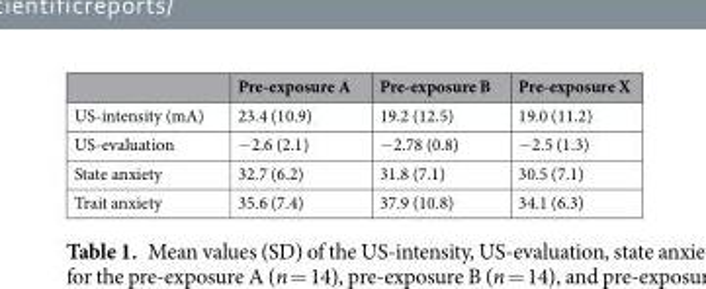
<table><thead><tr><td></td><td>Pre-exposure A</td><td>Pre-exposure B</td><td>Pre-exposure X</td></tr></thead><tbody><tr><td>US-intensity (mA)</td><td>23.4 (10.9)</td><td>19.2 (12.5)</td><td>19.0 (11.2)</td></tr><tr><td>US-evaluation</td><td>−2.6 (2.1)</td><td>−2.78 (0.8)</td><td>−2.5 (1.3)</td></tr><tr><td>State anxiety</td><td>32.7 (6.2)</td><td>31.8 (7.1)</td><td>30.5 (7.1)</td></tr><tr><td>Trait anxiety</td><td>35.6 (7.4)</td><td>37.9 (10.8)</td><td>34.1 (6.3)</td></tr></tbody></table>